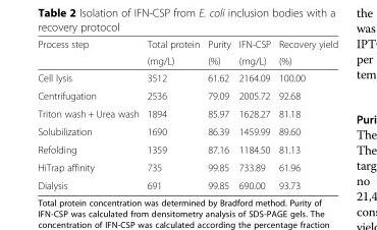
<table><thead><tr><td rowspan="2">Process step</td><td rowspan="2">Total protein (mg/L)</td><td rowspan="2">Purity (%)</td><td rowspan="2">IFN-CSP (mg/L)</td><td rowspan="2">Recovery yield (%)</td></tr><tr></tr></thead><tbody><tr><td>Cell lysis</td><td>3512</td><td>61.62</td><td>2164.09</td><td>100.00</td></tr><tr><td>Centrifugation</td><td>2536</td><td>79.09</td><td>2005.72</td><td>92.68</td></tr><tr><td>Triton wash + Urea wash</td><td>1894</td><td>85.97</td><td>1628.27</td><td>81.18</td></tr><tr><td>Solubilization</td><td>1690</td><td>86.39</td><td>1459.99</td><td>89.60</td></tr><tr><td>Refolding</td><td>1359</td><td>87.16</td><td>1184.50</td><td>81.13</td></tr><tr><td>HiTrap affinity</td><td>735</td><td>99.85</td><td>733.89</td><td>61.96</td></tr><tr><td>Dialysis</td><td>691</td><td>99.85</td><td>690.00</td><td>93.73</td></tr></tbody></table>